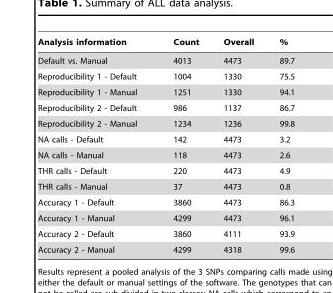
<table><thead><tr><td>Analysis information</td><td>Count</td><td>Overall</td><td>%</td></tr></thead><tbody><tr><td>Default vs. Manual</td><td>4013</td><td>4473</td><td>89.7</td></tr><tr><td>Reproducibility 1 - Default</td><td>1004</td><td>1330</td><td>75.5</td></tr><tr><td>Reproducibility 1 - Manual</td><td>1251</td><td>1330</td><td>94.1</td></tr><tr><td>Reproducibility 2 - Default</td><td>986</td><td>1137</td><td>86.7</td></tr><tr><td>Reproducibility 2 - Manual</td><td>1234</td><td>1236</td><td>99.8</td></tr><tr><td>NA calls - Default</td><td>142</td><td>4473</td><td>3.2</td></tr><tr><td>NA calls - Manual</td><td>118</td><td>4473</td><td>2.6</td></tr><tr><td>THR calls - Default</td><td>220</td><td>4473</td><td>4.9</td></tr><tr><td>THR calls - Manual</td><td>37</td><td>4473</td><td>0.8</td></tr><tr><td>Accuracy 1 - Default</td><td>3860</td><td>4473</td><td>86.3</td></tr><tr><td>Accuracy 1 - Manual</td><td>4299</td><td>4473</td><td>96.1</td></tr><tr><td>Accuracy 2 - Default</td><td>3860</td><td>4111</td><td>93.9</td></tr><tr><td>Accuracy 2 - Manual</td><td>4299</td><td>4318</td><td>99.6</td></tr></tbody></table>